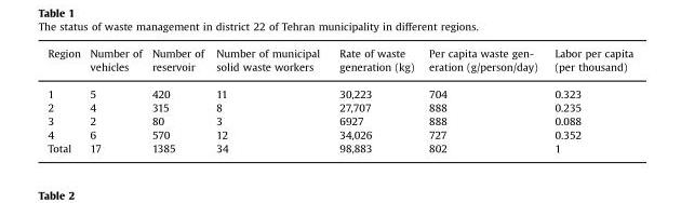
<table><thead><tr><td>Region</td><td>Number of vehicles</td><td>Number of reservoir</td><td>Number of municipal solid waste workers</td><td>Rate of waste generation (kg)</td><td>Per capita waste gen- eration (g/person/day)</td><td>Labor per capita (per thousand)</td></tr></thead><tbody><tr><td>1</td><td>5</td><td>420</td><td>11</td><td>30,223</td><td>704</td><td>0.323</td></tr><tr><td>2</td><td>4</td><td>315</td><td>8</td><td>27,707</td><td>888</td><td>0.235</td></tr><tr><td>3</td><td>2</td><td>80</td><td>3</td><td>6927</td><td>888</td><td>0.088</td></tr><tr><td>4</td><td>6</td><td>570</td><td>12</td><td>34,026</td><td>727</td><td>0.352</td></tr><tr><td>Total</td><td>17</td><td>1385</td><td>34</td><td>98,883</td><td>802</td><td>1</td></tr></tbody></table>